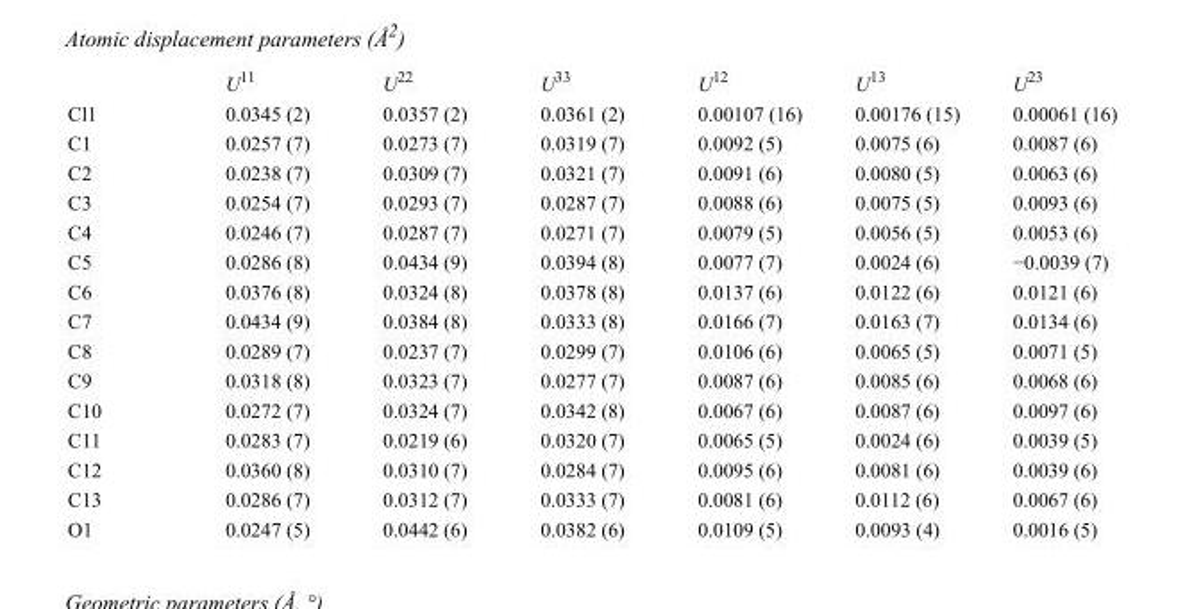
<table><thead><tr><td></td><td>U<sup>11</sup></td><td>U<sup>22</sup></td><td>U<sup>33</sup></td><td>U<sup>12</sup></td><td>U<sup>13</sup></td><td>U<sup>23</sup></td></tr></thead><tbody><tr><td>Cl1</td><td>0.0345 (2)</td><td>0.0357 (2)</td><td>0.0361 (2)</td><td>0.00107 (16)</td><td>0.00176 (15)</td><td>0.00061 (16)</td></tr><tr><td>C1</td><td>0.0257 (7)</td><td>0.0273 (7)</td><td>0.0319 (7)</td><td>0.0092 (5)</td><td>0.0075 (6)</td><td>0.0087 (6)</td></tr><tr><td>C2</td><td>0.0238 (7)</td><td>0.0309 (7)</td><td>0.0321 (7)</td><td>0.0091 (6)</td><td>0.0080 (5)</td><td>0.0063 (6)</td></tr><tr><td>C3</td><td>0.0254 (7)</td><td>0.0293 (7)</td><td>0.0287 (7)</td><td>0.0088 (6)</td><td>0.0075 (5)</td><td>0.0093 (6)</td></tr><tr><td>C4</td><td>0.0246 (7)</td><td>0.0287 (7)</td><td>0.0271 (7)</td><td>0.0079 (5)</td><td>0.0056 (5)</td><td>0.0053 (6)</td></tr><tr><td>C5</td><td>0.0286 (8)</td><td>0.0434 (9)</td><td>0.0394 (8)</td><td>0.0077 (7)</td><td>0.0024 (6)</td><td>−0.0039 (7)</td></tr><tr><td>C6</td><td>0.0376 (8)</td><td>0.0324 (8)</td><td>0.0378 (8)</td><td>0.0137 (6)</td><td>0.0122 (6)</td><td>0.0121 (6)</td></tr><tr><td>C7</td><td>0.0434 (9)</td><td>0.0384 (8)</td><td>0.0333 (8)</td><td>0.0166 (7)</td><td>0.0163 (7)</td><td>0.0134 (6)</td></tr><tr><td>C8</td><td>0.0289 (7)</td><td>0.0237 (7)</td><td>0.0299 (7)</td><td>0.0106 (6)</td><td>0.0065 (5)</td><td>0.0071 (5)</td></tr><tr><td>C9</td><td>0.0318 (8)</td><td>0.0323 (7)</td><td>0.0277 (7)</td><td>0.0087 (6)</td><td>0.0085 (6)</td><td>0.0068 (6)</td></tr><tr><td>C10</td><td>0.0272 (7)</td><td>0.0324 (7)</td><td>0.0342 (8)</td><td>0.0067 (6)</td><td>0.0087 (6)</td><td>0.0097 (6)</td></tr><tr><td>C11</td><td>0.0283 (7)</td><td>0.0219 (6)</td><td>0.0320 (7)</td><td>0.0065 (5)</td><td>0.0024 (6)</td><td>0.0039 (5)</td></tr><tr><td>C12</td><td>0.0360 (8)</td><td>0.0310 (7)</td><td>0.0284 (7)</td><td>0.0095 (6)</td><td>0.0081 (6)</td><td>0.0039 (6)</td></tr><tr><td>C13</td><td>0.0286 (7)</td><td>0.0312 (7)</td><td>0.0333 (7)</td><td>0.0081 (6)</td><td>0.0112 (6)</td><td>0.0067 (6)</td></tr><tr><td>O1</td><td>0.0247 (5)</td><td>0.0442 (6)</td><td>0.0382 (6)</td><td>0.0109 (5)</td><td>0.0093 (4)</td><td>0.0016 (5)</td></tr></tbody></table>